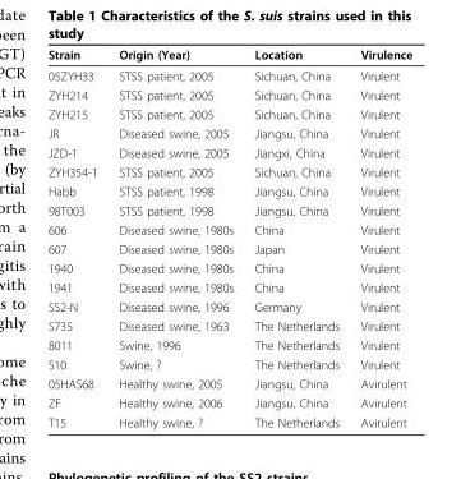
<table><thead><tr><td>Strain</td><td>Origin (Year)</td><td>Location</td><td>Virulence</td></tr></thead><tbody><tr><td>05ZYH33</td><td>STSS patient, 2005</td><td>Sichuan, China</td><td>Virulent</td></tr><tr><td>ZYH214</td><td>STSS patient, 2005</td><td>Sichuan, China</td><td>Virulent</td></tr><tr><td>ZYH215</td><td>STSS patient, 2005</td><td>Sichuan, China</td><td>Virulent</td></tr><tr><td>JR</td><td>Diseased swine, 2005</td><td>Jiangsu, China</td><td>Virulent</td></tr><tr><td>JZD-1</td><td>Diseased swine, 2005</td><td>Jiangxi, China</td><td>Virulent</td></tr><tr><td>ZYH354-1</td><td>STSS patient, 2005</td><td>Sichuan, China</td><td>Virulent</td></tr><tr><td>Habb</td><td>STSS patient, 1998</td><td>Jiangsu, China</td><td>Virulent</td></tr><tr><td>98T003</td><td>STSS patient, 1998</td><td>Jiangsu, China</td><td>Virulent</td></tr><tr><td>606</td><td>Diseased swine, 1980s</td><td>China</td><td>Virulent</td></tr><tr><td>607</td><td>Diseased swine, 1980s</td><td>Japan</td><td>Virulent</td></tr><tr><td>1940</td><td>Diseased swine, 1980s</td><td>China</td><td>Virulent</td></tr><tr><td>1941</td><td>Diseased swine, 1980s</td><td>China</td><td>Virulent</td></tr><tr><td>SS2-N</td><td>Diseased swine, 1996</td><td>Germany</td><td>Virulent</td></tr><tr><td>S735</td><td>Diseased swine, 1963</td><td>The Netherlands</td><td>Virulent</td></tr><tr><td>8011</td><td>Swine, 1996</td><td>The Netherlands</td><td>Virulent</td></tr><tr><td>S10</td><td>Swine, ?</td><td>The Netherlands</td><td>Virulent</td></tr><tr><td>05HAS68</td><td>Healthy swine, 2005</td><td>Jiangsu, China</td><td>Avirulent</td></tr><tr><td>ZF</td><td>Healthy swine, 2006</td><td>Jiangsu, China</td><td>Avirulent</td></tr><tr><td>T15</td><td>Healthy swine, ?</td><td>The Netherlands</td><td>Avirulent</td></tr></tbody></table>